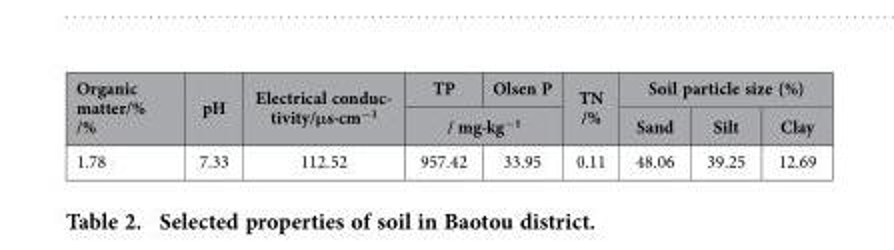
<table><thead><tr><td rowspan="2">Organic matter/% /%</td><td rowspan="2">pH</td><td rowspan="2">Electrical conduc- tivity/μs·cm−1</td><td>TP</td><td>Olsen P</td><td rowspan="2">TN /%</td><td colspan="3">Soil particle size (%)</td></tr><tr><td colspan="2">/ mg·kg−1</td><td>Sand</td><td>Silt</td><td>Clay</td></tr></thead><tbody><tr><td>1.78</td><td>7.33</td><td>112.52</td><td>957.42</td><td>33.95</td><td>0.11</td><td>48.06</td><td>39.25</td><td>12.69</td></tr></tbody></table>